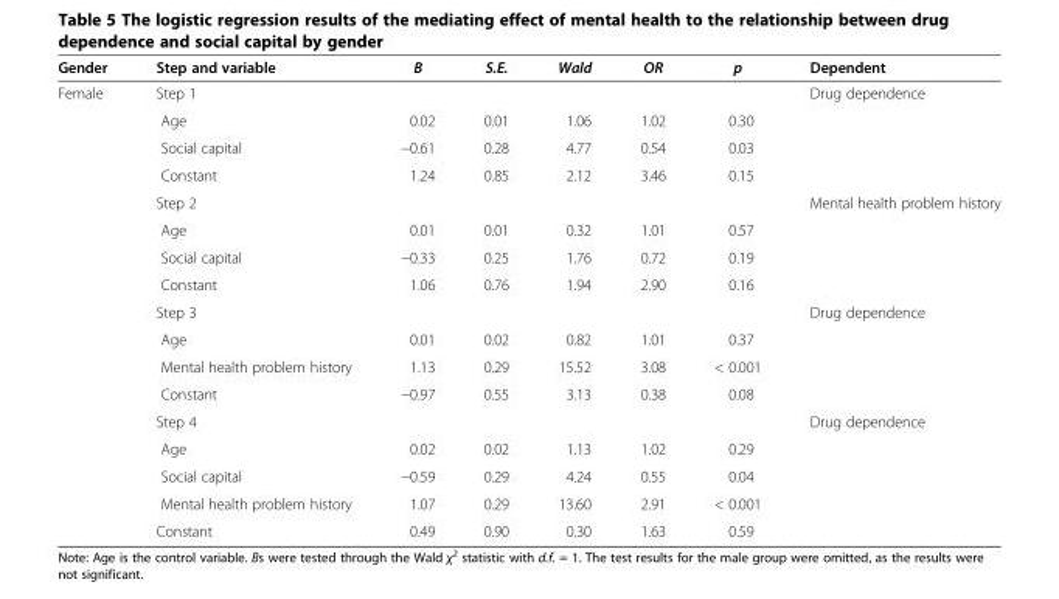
<table><thead><tr><td>Gender</td><td>Step and variable</td><td>B</td><td>S.E.</td><td>Wald</td><td>OR</td><td>p</td><td>Dependent</td></tr></thead><tbody><tr><td rowspan="17">Female</td><td>Step 1</td><td></td><td></td><td></td><td></td><td></td><td>Drug dependence</td></tr><tr><td>Age</td><td>0.02</td><td>0.01</td><td>1.06</td><td>1.02</td><td>0.30</td><td></td></tr><tr><td>Social capital</td><td>−0.61</td><td>0.28</td><td>4.77</td><td>0.54</td><td>0.03</td><td></td></tr><tr><td>Constant</td><td>1.24</td><td>0.85</td><td>2.12</td><td>3.46</td><td>0.15</td><td></td></tr><tr><td>Step 2</td><td></td><td></td><td></td><td></td><td></td><td>Mental health problem history</td></tr><tr><td>Age</td><td>0.01</td><td>0.01</td><td>0.32</td><td>1.01</td><td>0.57</td><td></td></tr><tr><td>Social capital</td><td>−0.33</td><td>0.25</td><td>1.76</td><td>0.72</td><td>0.19</td><td></td></tr><tr><td>Constant</td><td>1.06</td><td>0.76</td><td>1.94</td><td>2.90</td><td>0.16</td><td></td></tr><tr><td>Step 3</td><td></td><td></td><td></td><td></td><td></td><td>Drug dependence</td></tr><tr><td>Age</td><td>0.01</td><td>0.02</td><td>0.82</td><td>1.01</td><td>0.37</td><td></td></tr><tr><td>Mental health problem history</td><td>1.13</td><td>0.29</td><td>15.52</td><td>3.08</td><td>&lt; 0.001</td><td></td></tr><tr><td>Constant</td><td>−0.97</td><td>0.55</td><td>3.13</td><td>0.38</td><td>0.08</td><td></td></tr><tr><td>Step 4</td><td></td><td></td><td></td><td></td><td></td><td>Drug dependence</td></tr><tr><td>Age</td><td>0.02</td><td>0.02</td><td>1.13</td><td>1.02</td><td>0.29</td><td></td></tr><tr><td>Social capital</td><td>−0.59</td><td>0.29</td><td>4.24</td><td>0.55</td><td>0.04</td><td></td></tr><tr><td>Mental health problem history</td><td>1.07</td><td>0.29</td><td>13.60</td><td>2.91</td><td>&lt; 0.001</td><td></td></tr><tr><td>Constant</td><td>0.49</td><td>0.90</td><td>0.30</td><td>1.63</td><td>0.59</td><td></td></tr></tbody></table>